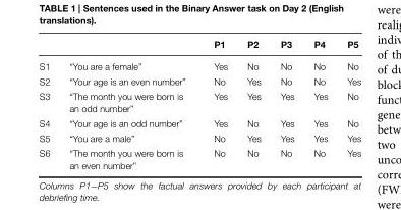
<table><thead><tr><td></td><td></td><td>P1</td><td>P2</td><td>P3</td><td>P4</td><td>P5</td></tr></thead><tbody><tr><td>S1</td><td>“You are a female”</td><td>Yes</td><td>No</td><td>No</td><td>No</td><td>No</td></tr><tr><td>S2</td><td>“Your age is an even number”</td><td>No</td><td>Yes</td><td>No</td><td>No</td><td>Yes</td></tr><tr><td>S3</td><td>“The month you were born is an odd number”</td><td>Yes</td><td>Yes</td><td>Yes</td><td>Yes</td><td>No</td></tr><tr><td>S4</td><td>“Your age is an odd number”</td><td>Yes</td><td>No</td><td>Yes</td><td>Yes</td><td>No</td></tr><tr><td>S5</td><td>“You are a male”</td><td>No</td><td>Yes</td><td>Yes</td><td>Yes</td><td>Yes</td></tr><tr><td>S6</td><td>“The month you were born is an even number”</td><td>No</td><td>No</td><td>No</td><td>No</td><td>Yes</td></tr></tbody></table>